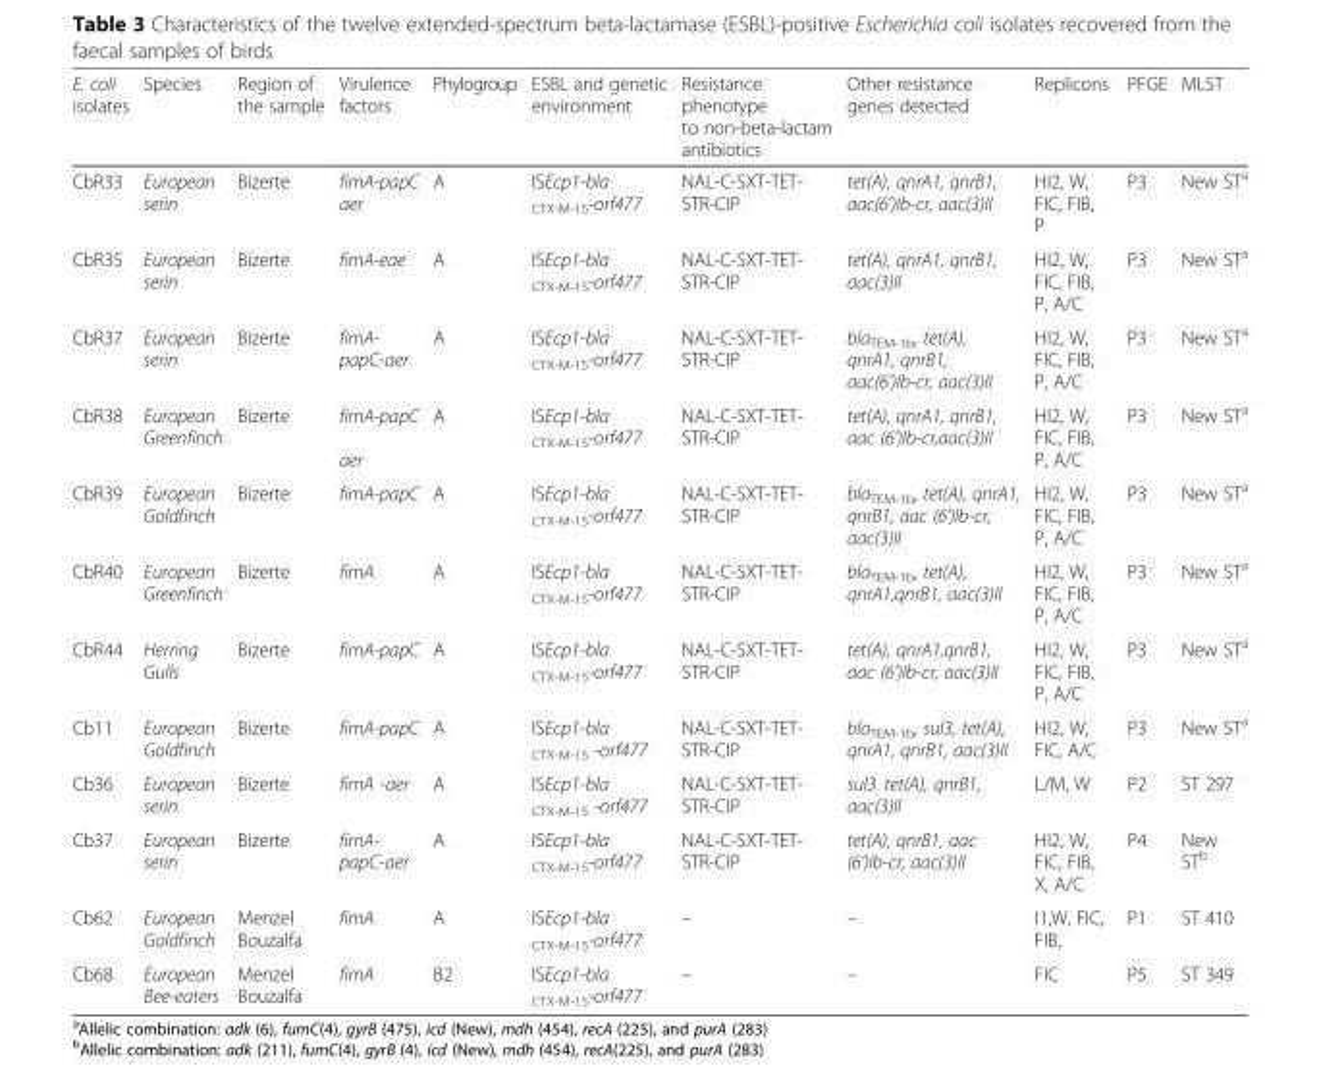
<table><thead><tr><td>E. coli isolates</td><td>Species</td><td>Region of the sample</td><td>Virulence factors</td><td>Phylogroup</td><td>ESBL and genetic environment</td><td>Resistance phenotype to non-beta-lactam antibiotics</td><td>Other resistance genes detected</td><td>Replicons</td><td>PFGE</td><td>MLST</td></tr></thead><tbody><tr><td>CbR33</td><td>European serin</td><td>Bizerte</td><td>fimA-papC aer</td><td>A</td><td>ISEcp1-bla <sub>CTX-M-15</sub>-orf477</td><td>NAL-C-SXT-TET- STR-CIP</td><td>tet(A), qnrA1, qnrB1, aac(6’)Ib-cr, aac(3)II</td><td>HI2, W, FIC, FIB, P</td><td>P3</td><td>New ST<sup>a</sup></td></tr><tr><td>CbR35</td><td>European serin</td><td>Bizerte</td><td>fimA-eae</td><td>A</td><td>ISEcp1-bla <sub>CTX-M-15</sub>-orf477</td><td>NAL-C-SXT-TET- STR-CIP</td><td>tet(A), qnrA1, qnrB1, aac(3)II</td><td>HI2, W, FIC, FIB, P, A/C</td><td>P3</td><td>New ST<sup>a</sup></td></tr><tr><td>CbR37</td><td>European serin</td><td>Bizerte</td><td>fimA- papC-aer</td><td>A</td><td>ISEcp1-bla <sub>CTX-M-15</sub>-orf477</td><td>NAL-C-SXT-TET- STR-CIP</td><td>bla<sub>TEM-1b</sub>, tet(A), qnrA1, qnrB1, aac(6’)Ib-cr, aac(3)II</td><td>HI2, W, FIC, FIB, P, A/C</td><td>P3</td><td>New ST<sup>a</sup></td></tr><tr><td>CbR38</td><td>European Greenfinch</td><td>Bizerte</td><td>fimA-papC aer</td><td>A</td><td>ISEcp1-bla <sub>CTX-M-15</sub>-orf477</td><td>NAL-C-SXT-TET- STR-CIP</td><td>tet(A), qnrA1, qnrB1, aac (6’)Ib-cr,aac(3)II</td><td>HI2, W, FIC, FIB, P, A/C</td><td>P3</td><td>New ST<sup>a</sup></td></tr><tr><td>CbR39</td><td>European Goldfinch</td><td>Bizerte</td><td>fimA-papC</td><td>A</td><td>ISEcp1-bla <sub>CTX-M-15</sub>-orf477</td><td>NAL-C-SXT-TET- STR-CIP</td><td>bla<sub>TEM-1b</sub>, tet(A), qnrA1, qnrB1, aac (6’)Ib-cr, aac(3)II</td><td>HI2, W, FIC, FIB, P, A/C</td><td>P3</td><td>New ST<sup>a</sup></td></tr><tr><td>CbR40</td><td>European Greenfinch</td><td>Bizerte</td><td>fimA</td><td>A</td><td>ISEcp1-bla <sub>CTX-M-15</sub>-orf477</td><td>NAL-C-SXT-TET- STR-CIP</td><td>bla<sub>TEM-1b</sub>, tet(A), qnrA1,qnrB1, aac(3)II</td><td>HI2, W, FIC, FIB, P, A/C</td><td>P3</td><td>New ST<sup>a</sup></td></tr><tr><td>CbR44</td><td>Herring Gulls</td><td>Bizerte</td><td>fimA-papC</td><td>A</td><td>ISEcp1-bla <sub>CTX-M-15</sub>-orf477</td><td>NAL-C-SXT-TET- STR-CIP</td><td>tet(A), qnrA1,qnrB1, aac (6’)Ib-cr, aac(3)II</td><td>HI2, W, FIC, FIB, P, A/C</td><td>P3</td><td>New ST<sup>a</sup></td></tr><tr><td>Cb11</td><td>European Goldfinch</td><td>Bizerte</td><td>fimA-papC</td><td>A</td><td>ISEcp1-bla <sub>CTX-M-15</sub> -orf477</td><td>NAL-C-SXT-TET- STR-CIP</td><td>bla<sub>TEM-1b</sub>, sul3, tet(A), qnrA1, qnrB1, aac(3)II</td><td>HI2, W, FIC, A/C</td><td>P3</td><td>New ST<sup>a</sup></td></tr><tr><td>Cb36</td><td>European serin</td><td>Bizerte</td><td>fimA -aer</td><td>A</td><td>ISEcp1-bla <sub>CTX-M-15</sub> -orf477</td><td>NAL-C-SXT-TET- STR-CIP</td><td>sul3<sub>,</sub> tet(A), qnrB1, aac(3)II</td><td>L/M, W</td><td>P2</td><td>ST 297</td></tr><tr><td>Cb37</td><td>European serin</td><td>Bizerte</td><td>fimA- papC-aer</td><td>A</td><td>ISEcp1-bla <sub>CTX-M-15</sub>-orf477</td><td>NAL-C-SXT-TET- STR-CIP</td><td>tet(A), qnrB1, aac (6’)Ib-cr, aac(3)II</td><td>HI2, W, FIC, FIB, X, A/C</td><td>P4</td><td>New ST<sup>b</sup></td></tr><tr><td>Cb62</td><td>European Goldfinch</td><td>Menzel Bouzalfa</td><td>fimA</td><td>A</td><td>ISEcp1-bla <sub>CTX-M-15</sub>-orf477</td><td>–</td><td>–</td><td>I1,W, FIC, FIB,</td><td>P1</td><td>ST 410</td></tr><tr><td>Cb68</td><td>European Bee-eaters</td><td>Menzel Bouzalfa</td><td>fimA</td><td>B2</td><td>ISEcp1-bla <sub>CTX-M-15</sub>-orf477</td><td>–</td><td>–</td><td>FIC</td><td>P5</td><td>ST 349</td></tr></tbody></table>